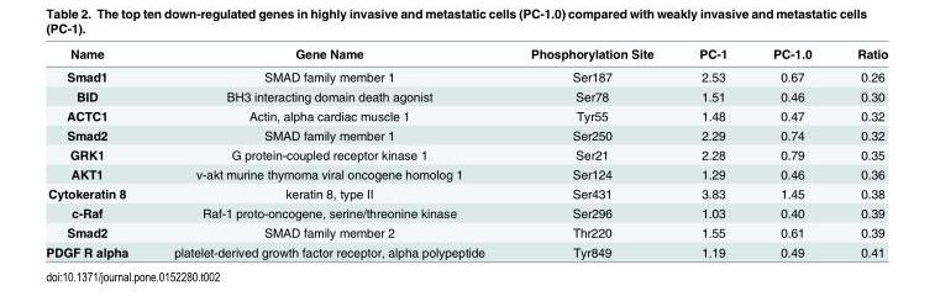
<table><thead><tr><td>Name</td><td>Gene Name</td><td>Phosphorylation Site</td><td>PC-1</td><td>PC-1.0</td><td>Ratio</td></tr></thead><tbody><tr><td>Smad1</td><td>SMAD family member 1</td><td>Ser187</td><td>2.53</td><td>0.67</td><td>0.26</td></tr><tr><td>BID</td><td>BH3 interacting domain death agonist</td><td>Ser78</td><td>1.51</td><td>0.46</td><td>0.30</td></tr><tr><td>ACTC1</td><td>Actin, alpha cardiac muscle 1</td><td>Tyr55</td><td>1.48</td><td>0.47</td><td>0.32</td></tr><tr><td>Smad2</td><td>SMAD family member 1</td><td>Ser250</td><td>2.29</td><td>0.74</td><td>0.32</td></tr><tr><td>GRK1</td><td>G protein-coupled receptor kinase 1</td><td>Ser21</td><td>2.28</td><td>0.79</td><td>0.35</td></tr><tr><td>AKT1</td><td>v-akt murine thymoma viral oncogene homolog 1</td><td>Ser124</td><td>1.29</td><td>0.46</td><td>0.36</td></tr><tr><td>Cytokeratin 8</td><td>keratin 8, type II</td><td>Ser431</td><td>3.83</td><td>1.45</td><td>0.38</td></tr><tr><td>c-Raf</td><td>Raf-1 proto-oncogene, serine/threonine kinase</td><td>Ser296</td><td>1.03</td><td>0.40</td><td>0.39</td></tr><tr><td>Smad2</td><td>SMAD family member 2</td><td>Thr220</td><td>1.55</td><td>0.61</td><td>0.39</td></tr><tr><td>PDGF R alpha</td><td>platelet-derived growth factor receptor, alpha polypeptide</td><td>Tyr849</td><td>1.19</td><td>0.49</td><td>0.41</td></tr></tbody></table>